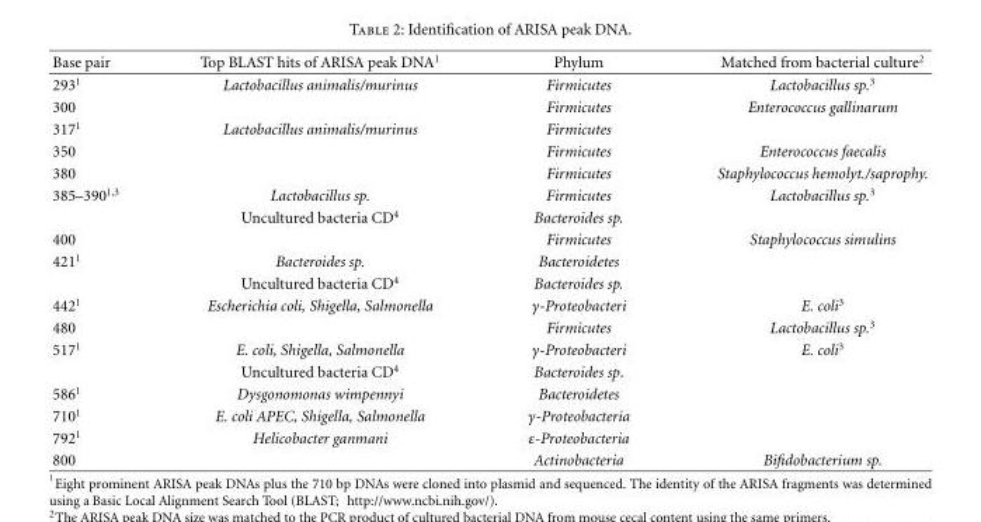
<table><thead><tr><td>Base pair</td><td>Top BLAST hits of ARISA peak DNA<sup>1</sup></td><td>Phylum</td><td>Matched from bacterial culture<sup>2</sup></td></tr></thead><tbody><tr><td>293<sup>1</sup></td><td>Lactobacillus animalis/murinus</td><td>Firmicutes</td><td>Lactobacillus sp.<sup>3</sup></td></tr><tr><td>300</td><td></td><td>Firmicutes</td><td>Enterococcus gallinarum</td></tr><tr><td>317<sup>1</sup></td><td>Lactobacillus animalis/murinus</td><td>Firmicutes</td><td></td></tr><tr><td>350</td><td></td><td>Firmicutes</td><td>Enterococcus faecalis</td></tr><tr><td>380</td><td></td><td>Firmicutes</td><td>Staphylococcus hemolyt./saprophy.</td></tr><tr><td rowspan="2">385–390<sup>1,3</sup></td><td>Lactobacillus sp.</td><td>Firmicutes</td><td>Lactobacillus sp.<sup>3</sup></td></tr><tr><td>Uncultured bacteria CD<sup>4</sup></td><td>Bacteroides sp.</td><td></td></tr><tr><td>400</td><td></td><td>Firmicutes</td><td>Staphylococcus simulins</td></tr><tr><td rowspan="2">421<sup>1</sup></td><td>Bacteroides sp.</td><td>Bacteroidetes</td><td></td></tr><tr><td>Uncultured bacteria CD<sup>4</sup></td><td>Bacteroides sp.</td><td></td></tr><tr><td>442<sup>1</sup></td><td>Escherichia coli, Shigella, Salmonella</td><td>γ-Proteobacteri</td><td>E. coli<sup>3</sup></td></tr><tr><td>480</td><td></td><td>Firmicutes</td><td>Lactobacillus sp.<sup>3</sup></td></tr><tr><td rowspan="2">517<sup>1</sup></td><td>E. coli, Shigella, Salmonella</td><td>γ-Proteobacteri</td><td>E. coli<sup>3</sup></td></tr><tr><td>Uncultured bacteria CD<sup>4</sup></td><td>Bacteroides sp.</td><td></td></tr><tr><td>586<sup>1</sup></td><td>Dysgonomonas wimpennyi</td><td>Bacteroidetes</td><td></td></tr><tr><td>710<sup>1</sup></td><td>E. coli APEC, Shigella, Salmonella</td><td>γ-Proteobacteria</td><td></td></tr><tr><td>792<sup>1</sup></td><td>Helicobacter ganmani</td><td>ε-Proteobacteria</td><td></td></tr><tr><td>800</td><td></td><td>Actinobacteria</td><td>Bifidobacterium sp.</td></tr></tbody></table>